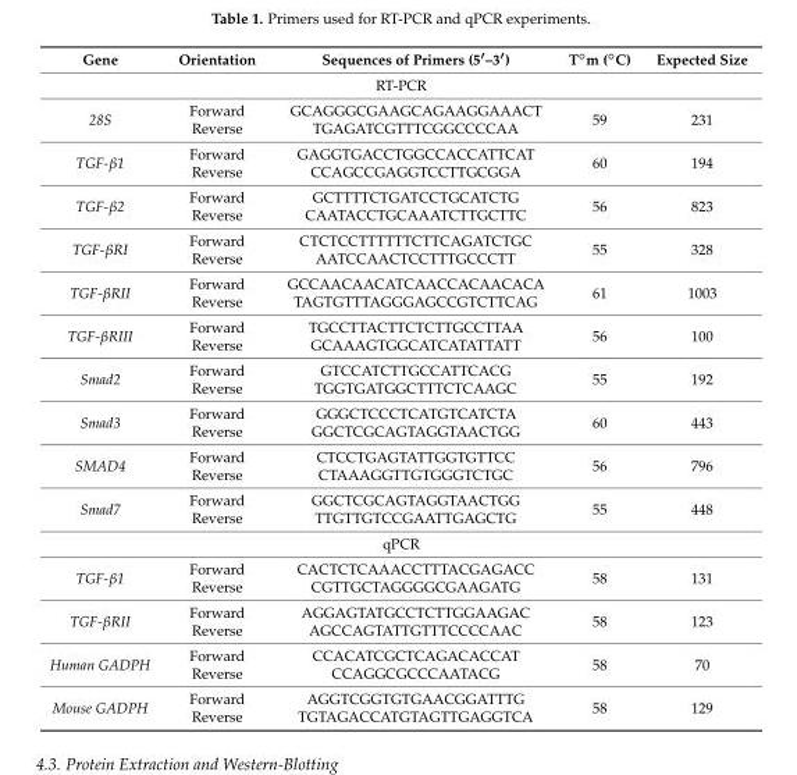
<table><thead><tr><td>Gene</td><td>Orientation</td><td>Sequences of Primers (5′–3′)</td><td>T◦m (◦C)</td><td>Expected Size</td></tr></thead><tbody><tr><td colspan="5">RT-PCR</td></tr><tr><td>28S</td><td>Forward Reverse</td><td>GCAGGGCGAAGCAGAAGGAAACT TGAGATCGTTTCGGCCCCAA</td><td>59</td><td>231</td></tr><tr><td>TGF-β1</td><td>Forward Reverse</td><td>GAGGTGACCTGGCCACCATTCAT CCAGCCGAGGTCCTTGCGGA</td><td>60</td><td>194</td></tr><tr><td>TGF-β2</td><td>Forward Reverse</td><td>GCTTTTCTGATCCTGCATCTG CAATACCTGCAAATCTTGCTTC</td><td>56</td><td>823</td></tr><tr><td>TGF-βRI</td><td>Forward Reverse</td><td>CTCTCCTTTTTTCTTCAGATCTGC AATCCAACTCCTTTGCCCTT</td><td>55</td><td>328</td></tr><tr><td>TGF-βRII</td><td>Forward Reverse</td><td>GCCAACAACATCAACCACAACACA TAGTGTTTAGGGAGCCGTCTTCAG</td><td>61</td><td>1003</td></tr><tr><td>TGF-βRIII</td><td>Forward Reverse</td><td>TGCCTTACTTCTCTTGCCTTAA GCAAAGTGGCATCATATTATT</td><td>56</td><td>100</td></tr><tr><td>Smad2</td><td>Forward Reverse</td><td>GTCCATCTTGCCATTCACG TGGTGATGGCTTTCTCAAGC</td><td>55</td><td>192</td></tr><tr><td>Smad3</td><td>Forward Reverse</td><td>GGGCTCCCTCATGTCATCTA GGCTCGCAGTAGGTAACTGG</td><td>60</td><td>443</td></tr><tr><td>SMAD4</td><td>Forward Reverse</td><td>CTCCTGAGTATTGGTGTTCC CTAAAGGTTGTGGGTCTGC</td><td>56</td><td>796</td></tr><tr><td>Smad7</td><td>Forward Reverse</td><td>GGCTCGCAGTAGGTAACTGG TTGTTGTCCGAATTGAGCTG</td><td>55</td><td>448</td></tr><tr><td colspan="5">qPCR</td></tr><tr><td>TGF-β1</td><td>Forward Reverse</td><td>CACTCTCAAACCTTTACGAGACC CGTTGCTAGGGGCGAAGATG</td><td>58</td><td>131</td></tr><tr><td>TGF-βRII</td><td>Forward Reverse</td><td>AGGAGTATGCCTCTTGGAAGAC AGCCAGTATTGTTTCCCCAAC</td><td>58</td><td>123</td></tr><tr><td>Human GADPH</td><td>Forward Reverse</td><td>CCACATCGCTCAGACACCAT CCAGGCGCCCAATACG</td><td>58</td><td>70</td></tr><tr><td>Mouse GADPH</td><td>Forward Reverse</td><td>AGGTCGGTGTGAACGGATTTG TGTAGACCATGTAGTTGAGGTCA</td><td>58</td><td>129</td></tr></tbody></table>